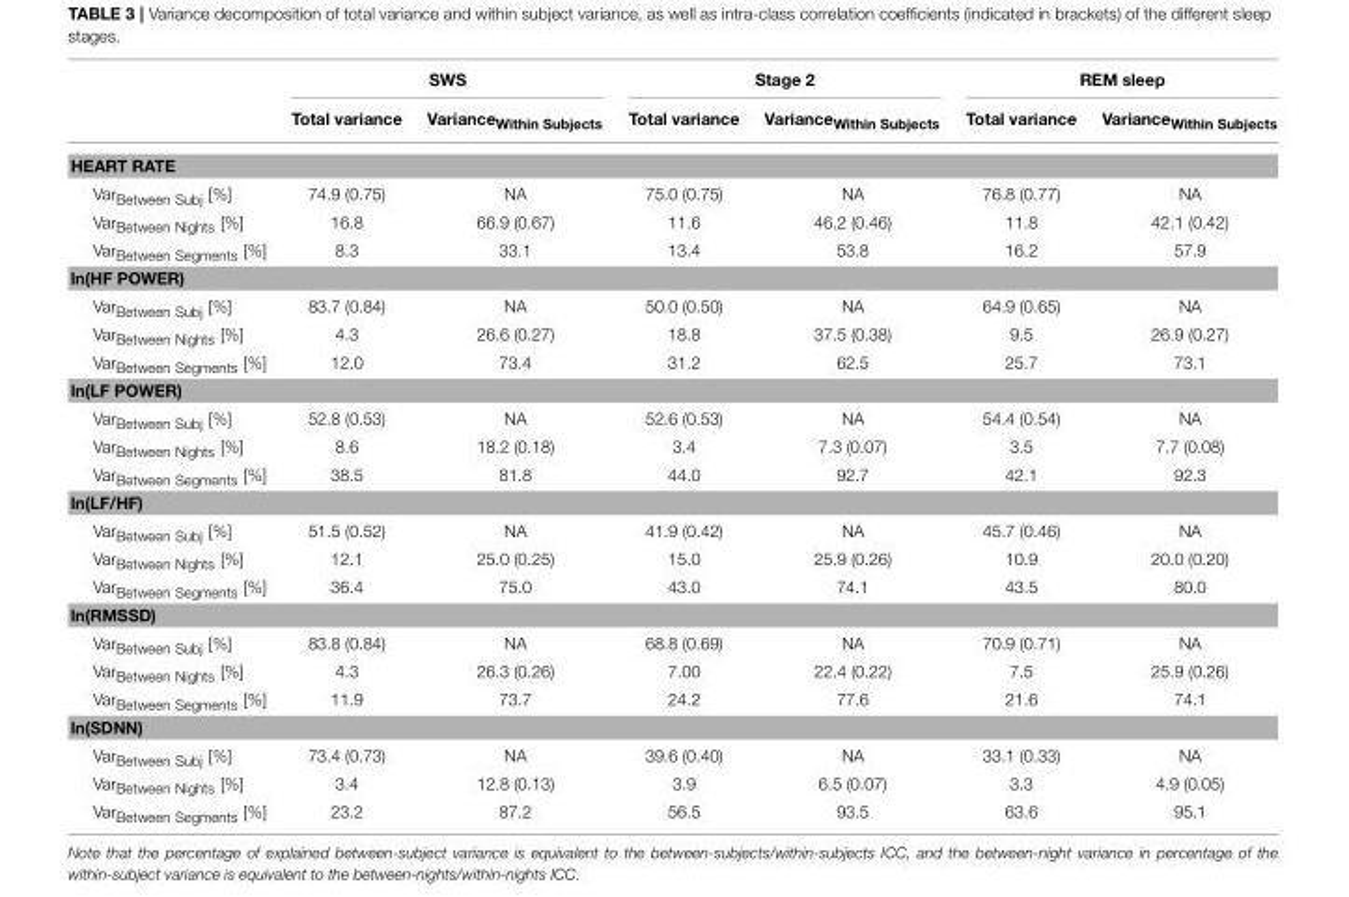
<table><thead><tr><td rowspan="2"></td><td colspan="2">SWS</td><td colspan="2">Stage 2</td><td colspan="2">REM sleep</td></tr><tr><td>Total variance</td><td>Variance<sub>Within Subjects</sub></td><td>Total variance</td><td>Variance<sub>Within Subjects</sub></td><td>Total variance</td><td>Variance<sub>Within Subjects</sub></td></tr></thead><tbody><tr><td colspan="7">HEART RATE</td></tr><tr><td>Var<sub>Between Subj</sub> [%]</td><td>74.9 (0.75)</td><td>NA</td><td>75.0 (0.75)</td><td>NA</td><td>76.8 (0.77)</td><td>NA</td></tr><tr><td>Var<sub>Between Nights</sub> [%]</td><td>16.8</td><td>66.9 (0.67)</td><td>11.6</td><td>46.2 (0.46)</td><td>11.8</td><td>42.1 (0.42)</td></tr><tr><td>Var<sub>Between Segments</sub> [%]</td><td>8.3</td><td>33.1</td><td>13.4</td><td>53.8</td><td>16.2</td><td>57.9</td></tr><tr><td colspan="7">ln(HF POWER)</td></tr><tr><td>Var<sub>Between Subj</sub> [%]</td><td>83.7 (0.84)</td><td>NA</td><td>50.0 (0.50)</td><td>NA</td><td>64.9 (0.65)</td><td>NA</td></tr><tr><td>Var<sub>Between Nights</sub> [%]</td><td>4.3</td><td>26.6 (0.27)</td><td>18.8</td><td>37.5 (0.38)</td><td>9.5</td><td>26.9 (0.27)</td></tr><tr><td>Var<sub>Between Segments</sub> [%]</td><td>12.0</td><td>73.4</td><td>31.2</td><td>62.5</td><td>25.7</td><td>73.1</td></tr><tr><td colspan="7">ln(LF POWER)</td></tr><tr><td>Var<sub>Between Subj</sub> [%]</td><td>52.8 (0.53)</td><td>NA</td><td>52.6 (0.53)</td><td>NA</td><td>54.4 (0.54)</td><td>NA</td></tr><tr><td>Var<sub>Between Nights</sub> [%]</td><td>8.6</td><td>18.2 (0.18)</td><td>3.4</td><td>7.3 (0.07)</td><td>3.5</td><td>7.7 (0.08)</td></tr><tr><td>Var<sub>Between Segments</sub> [%]</td><td>38.5</td><td>81.8</td><td>44.0</td><td>92.7</td><td>42.1</td><td>92.3</td></tr><tr><td colspan="7">ln(LF/HF)</td></tr><tr><td>Var<sub>Between Subj</sub> [%]</td><td>51.5 (0.52)</td><td>NA</td><td>41.9 (0.42)</td><td>NA</td><td>45.7 (0.46)</td><td>NA</td></tr><tr><td>Var<sub>Between Nights</sub> [%]</td><td>12.1</td><td>25.0 (0.25)</td><td>15.0</td><td>25.9 (0.26)</td><td>10.9</td><td>20.0 (0.20)</td></tr><tr><td>Var<sub>Between Segments</sub> [%]</td><td>36.4</td><td>75.0</td><td>43.0</td><td>74.1</td><td>43.5</td><td>80.0</td></tr><tr><td colspan="7">ln(RMSSD)</td></tr><tr><td>Var<sub>Between Subj</sub> [%]</td><td>83.8 (0.84)</td><td>NA</td><td>68.8 (0.69)</td><td>NA</td><td>70.9 (0.71)</td><td>NA</td></tr><tr><td>Var<sub>Between Nights</sub> [%]</td><td>4.3</td><td>26.3 (0.26)</td><td>7.00</td><td>22.4 (0.22)</td><td>7.5</td><td>25.9 (0.26)</td></tr><tr><td>Var<sub>Between Segments</sub> [%]</td><td>11.9</td><td>73.7</td><td>24.2</td><td>77.6</td><td>21.6</td><td>74.1</td></tr><tr><td colspan="7">ln(SDNN)</td></tr><tr><td>Var<sub>Between Subj</sub> [%]</td><td>73.4 (0.73)</td><td>NA</td><td>39.6 (0.40)</td><td>NA</td><td>33.1 (0.33)</td><td>NA</td></tr><tr><td>Var<sub>Between Nights</sub> [%]</td><td>3.4</td><td>12.8 (0.13)</td><td>3.9</td><td>6.5 (0.07)</td><td>3.3</td><td>4.9 (0.05)</td></tr><tr><td>Var<sub>Between Segments</sub> [%]</td><td>23.2</td><td>87.2</td><td>56.5</td><td>93.5</td><td>63.6</td><td>95.1</td></tr></tbody></table>